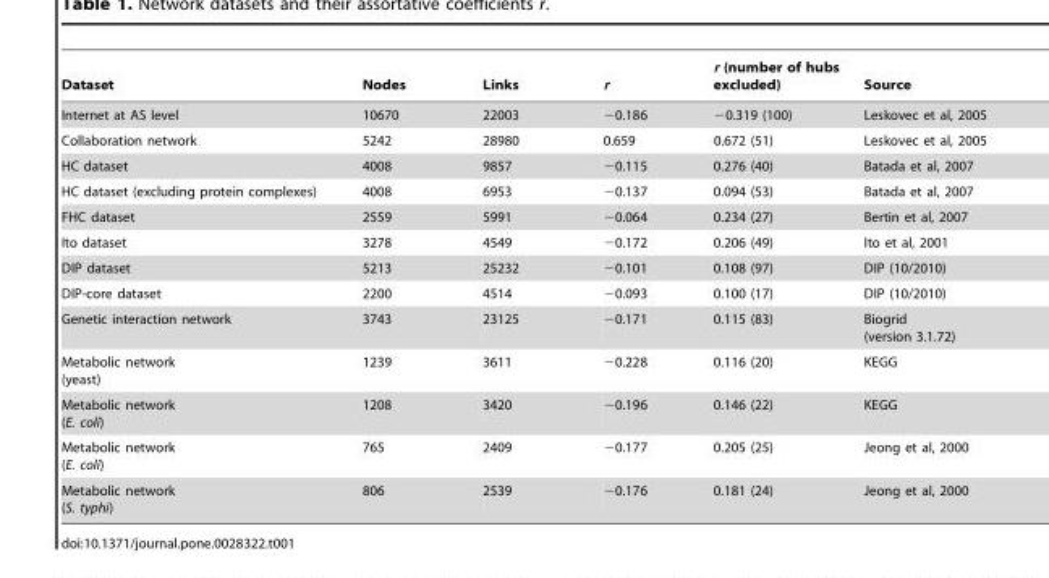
<table><thead><tr><td>Dataset</td><td>Nodes</td><td>Links</td><td>r</td><td>r (number of hubs excluded)</td><td>Source</td></tr></thead><tbody><tr><td>Internet at AS level</td><td>10670</td><td>22003</td><td>−0.186</td><td>−0.319 (100)</td><td>Leskovec et al, 2005</td></tr><tr><td>Collaboration network</td><td>5242</td><td>28980</td><td>0.659</td><td>0.672 (51)</td><td>Leskovec et al, 2005</td></tr><tr><td>HC dataset</td><td>4008</td><td>9857</td><td>−0.115</td><td>0.276 (40)</td><td>Batada et al, 2007</td></tr><tr><td>HC dataset (excluding protein complexes)</td><td>4008</td><td>6953</td><td>−0.137</td><td>0.094 (53)</td><td>Batada et al, 2007</td></tr><tr><td>FHC dataset</td><td>2559</td><td>5991</td><td>−0.064</td><td>0.234 (27)</td><td>Bertin et al, 2007</td></tr><tr><td>Ito dataset</td><td>3278</td><td>4549</td><td>−0.172</td><td>0.206 (49)</td><td>Ito et al, 2001</td></tr><tr><td>DIP dataset</td><td>5213</td><td>25232</td><td>−0.101</td><td>0.108 (97)</td><td>DIP (10/2010)</td></tr><tr><td>DIP-core dataset</td><td>2200</td><td>4514</td><td>−0.093</td><td>0.100 (17)</td><td>DIP (10/2010)</td></tr><tr><td>Genetic interaction network</td><td>3743</td><td>23125</td><td>−0.171</td><td>0.115 (83)</td><td>Biogrid (version 3.1.72)</td></tr><tr><td>Metabolic network (yeast)</td><td>1239</td><td>3611</td><td>−0.228</td><td>0.116 (20)</td><td>KEGG</td></tr><tr><td>Metabolic network (E. coli)</td><td>1208</td><td>3420</td><td>−0.196</td><td>0.146 (22)</td><td>KEGG</td></tr><tr><td>Metabolic network (E. coli)</td><td>765</td><td>2409</td><td>−0.177</td><td>0.205 (25)</td><td>Jeong et al, 2000</td></tr><tr><td>Metabolic network (S. typhi)</td><td>806</td><td>2539</td><td>−0.176</td><td>0.181 (24)</td><td>Jeong et al, 2000</td></tr></tbody></table>